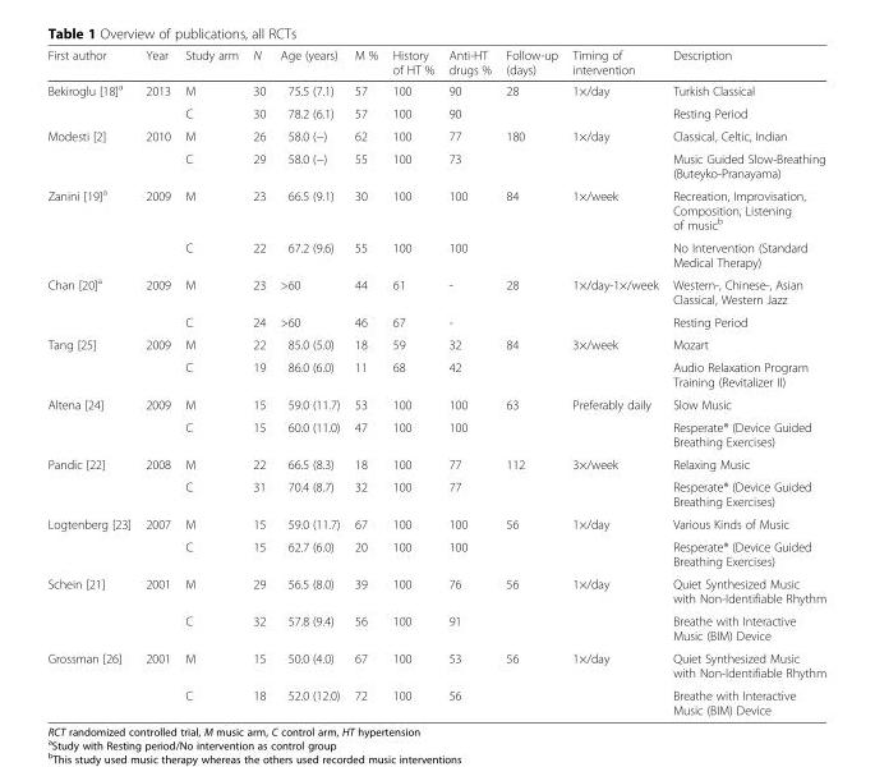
<table><thead><tr><td>First author</td><td>Year</td><td>Study arm</td><td>N</td><td>Age (years)</td><td>M %</td><td>History of HT %</td><td>Anti-HT drugs %</td><td>Follow-up (days)</td><td>Timing of intervention</td><td>Description</td></tr></thead><tbody><tr><td rowspan="2">Bekiroglu [18]<sup>a</sup></td><td>2013</td><td>M</td><td>30</td><td>75.5 (7.1)</td><td>57</td><td>100</td><td>90</td><td>28</td><td>1×/day</td><td>Turkish Classical</td></tr><tr><td></td><td>C</td><td>30</td><td>78.2 (6.1)</td><td>57</td><td>100</td><td>90</td><td></td><td></td><td>Resting Period</td></tr><tr><td rowspan="2">Modesti [2]</td><td>2010</td><td>M</td><td>26</td><td>58.0 (−)</td><td>62</td><td>100</td><td>77</td><td>180</td><td>1×/day</td><td>Classical, Celtic, Indian</td></tr><tr><td></td><td>C</td><td>29</td><td>58.0 (−)</td><td>55</td><td>100</td><td>73</td><td></td><td></td><td>Music Guided Slow-Breathing (Buteyko-Pranayama)</td></tr><tr><td rowspan="2">Zanini [19]<sup>a</sup></td><td>2009</td><td>M</td><td>23</td><td>66.5 (9.1)</td><td>30</td><td>100</td><td>100</td><td>84</td><td>1×/week</td><td>Recreation, Improvisation, Composition, Listening of music<sup>b</sup></td></tr><tr><td></td><td>C</td><td>22</td><td>67.2 (9.6)</td><td>55</td><td>100</td><td>100</td><td></td><td></td><td>No Intervention (Standard Medical Therapy)</td></tr><tr><td rowspan="2">Chan [20]<sup>a</sup></td><td>2009</td><td>M</td><td>23</td><td>&gt;60</td><td>44</td><td>61</td><td>-</td><td>28</td><td>1×/day-1×/week</td><td>Western-, Chinese-, Asian Classical, Western Jazz</td></tr><tr><td></td><td>C</td><td>24</td><td>&gt;60</td><td>46</td><td>67</td><td>-</td><td></td><td></td><td>Resting Period</td></tr><tr><td rowspan="2">Tang [25]</td><td>2009</td><td>M</td><td>22</td><td>85.0 (5.0)</td><td>18</td><td>59</td><td>32</td><td>84</td><td>3×/week</td><td>Mozart</td></tr><tr><td></td><td>C</td><td>19</td><td>86.0 (6.0)</td><td>11</td><td>68</td><td>42</td><td></td><td></td><td>Audio Relaxation Program Training (Revitalizer II)</td></tr><tr><td rowspan="2">Altena [24]</td><td>2009</td><td>M</td><td>15</td><td>59.0 (11.7)</td><td>53</td><td>100</td><td>100</td><td>63</td><td>Preferably daily</td><td>Slow Music</td></tr><tr><td></td><td>C</td><td>15</td><td>60.0 (11.0)</td><td>47</td><td>100</td><td>100</td><td></td><td></td><td>Resperate® (Device Guided Breathing Exercises)</td></tr><tr><td rowspan="2">Pandic [22]</td><td>2008</td><td>M</td><td>22</td><td>66.5 (8.3)</td><td>18</td><td>100</td><td>77</td><td>112</td><td>3×/week</td><td>Relaxing Music</td></tr><tr><td></td><td>C</td><td>31</td><td>70.4 (8.7)</td><td>32</td><td>100</td><td>77</td><td></td><td></td><td>Resperate® (Device Guided Breathing Exercises)</td></tr><tr><td rowspan="2">Logtenberg [23]</td><td>2007</td><td>M</td><td>15</td><td>59.0 (11.7)</td><td>67</td><td>100</td><td>100</td><td>56</td><td>1×/day</td><td>Various Kinds of Music</td></tr><tr><td></td><td>C</td><td>15</td><td>62.7 (6.0)</td><td>20</td><td>100</td><td>100</td><td></td><td></td><td>Resperate® (Device Guided Breathing Exercises)</td></tr><tr><td rowspan="2">Schein [21]</td><td>2001</td><td>M</td><td>29</td><td>56.5 (8.0)</td><td>39</td><td>100</td><td>76</td><td>56</td><td>1×/day</td><td>Quiet Synthesized Music with Non-Identifiable Rhythm</td></tr><tr><td></td><td>C</td><td>32</td><td>57.8 (9.4)</td><td>56</td><td>100</td><td>91</td><td></td><td></td><td>Breathe with Interactive Music (BIM) Device</td></tr><tr><td rowspan="2">Grossman [26]</td><td>2001</td><td>M</td><td>15</td><td>50.0 (4.0)</td><td>67</td><td>100</td><td>53</td><td>56</td><td>1×/day</td><td>Quiet Synthesized Music with Non-Identifiable Rhythm</td></tr><tr><td></td><td>C</td><td>18</td><td>52.0 (12.0)</td><td>72</td><td>100</td><td>56</td><td></td><td></td><td>Breathe with Interactive Music (BIM) Device</td></tr></tbody></table>